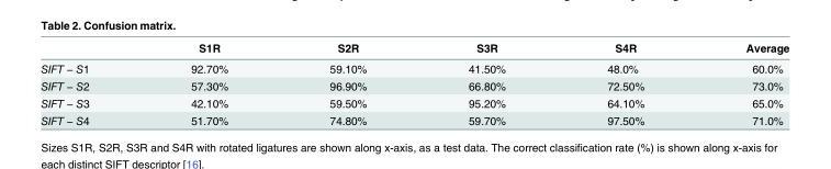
<table><thead><tr><td></td><td>S1R</td><td>S2R</td><td>S3R</td><td>S4R</td><td>Average</td></tr></thead><tbody><tr><td>SIFT − S1</td><td>92.70%</td><td>59.10%</td><td>41.50%</td><td>48.0%</td><td>60.0%</td></tr><tr><td>SIFT − S2</td><td>57.30%</td><td>96.90%</td><td>66.80%</td><td>72.50%</td><td>73.0%</td></tr><tr><td>SIFT − S3</td><td>42.10%</td><td>59.50%</td><td>95.20%</td><td>64.10%</td><td>65.0%</td></tr><tr><td>SIFT − S4</td><td>51.70%</td><td>74.80%</td><td>59.70%</td><td>97.50%</td><td>71.0%</td></tr></tbody></table>